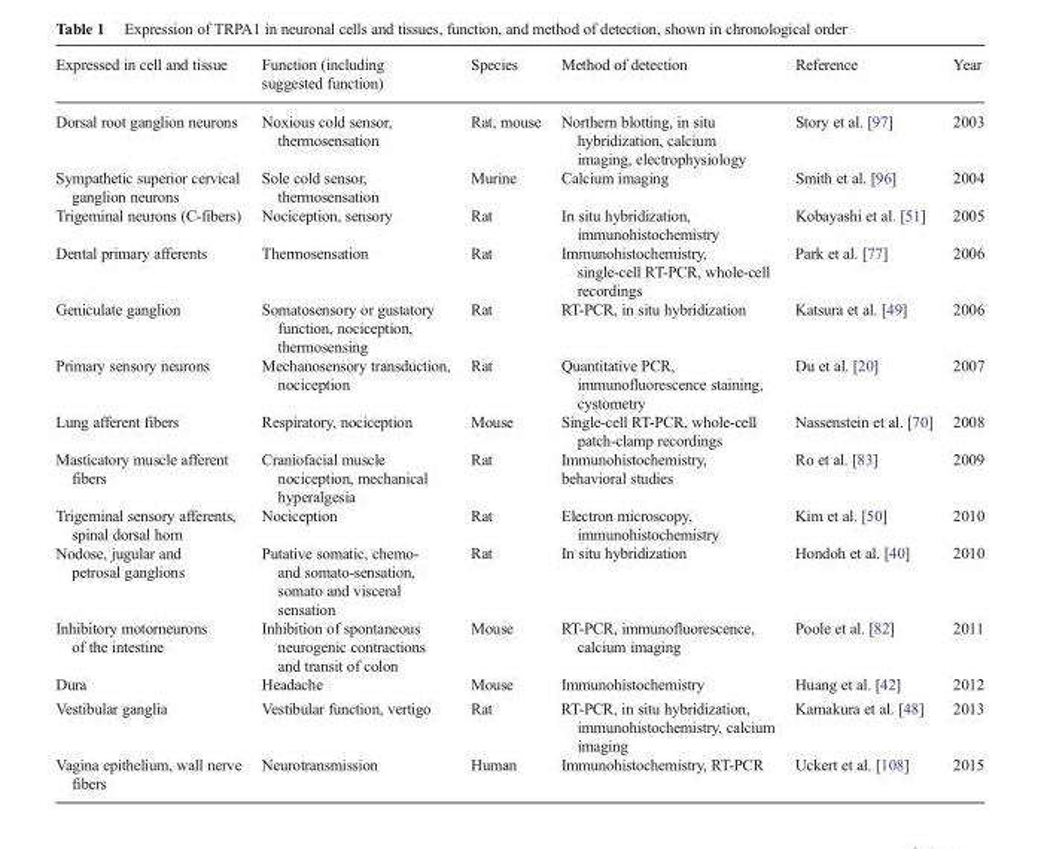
<table><thead><tr><td>Expressed in cell and tissue</td><td>Function (including suggested function)</td><td>Species</td><td>Method of detection</td><td>Reference</td><td>Year</td></tr></thead><tbody><tr><td>Dorsal root ganglion neurons</td><td>Noxious cold sensor, thermosensation</td><td>Rat, mouse</td><td>Northern blotting, in situ hybridization, calcium imaging, electrophysiology</td><td>Story et al. [97]</td><td>2003</td></tr><tr><td>Sympathetic superior cervical ganglion neurons</td><td>Sole cold sensor, thermosensation</td><td>Murine</td><td>Calcium imaging</td><td>Smith et al. [96]</td><td>2004</td></tr><tr><td>Trigeminal neurons (C-fibers)</td><td>Nociception, sensory</td><td>Rat</td><td>In situ hybridization, immunohistochemistry</td><td>Kobayashi et al. [51]</td><td>2005</td></tr><tr><td>Dental primary afferents</td><td>Thermosensation</td><td>Rat</td><td>Immunohistochemistry, single-cell RT-PCR, whole-cell recordings</td><td>Park et al. [77]</td><td>2006</td></tr><tr><td>Geniculate ganglion</td><td>Somatosensory or gustatory function, nociception, thermosensing</td><td>Rat</td><td>RT-PCR, in situ hybridization</td><td>Katsura et al. [49]</td><td>2006</td></tr><tr><td>Primary sensory neurons</td><td>Mechanosensory transduction, nociception</td><td>Rat</td><td>Quantitative PCR, immunofluorescence staining, cystometry</td><td>Du et al. [20]</td><td>2007</td></tr><tr><td>Lung afferent fibers</td><td>Respiratory, nociception</td><td>Mouse</td><td>Single-cell RT-PCR, whole-cell patch-clamp recordings</td><td>Nassenstein et al. [70]</td><td>2008</td></tr><tr><td>Masticatory muscle afferent fibers</td><td>Craniofacial muscle nociception, mechanical hyperalgesia</td><td>Rat</td><td>Immunohistochemistry, behavioral studies</td><td>Ro et al. [83]</td><td>2009</td></tr><tr><td>Trigeminal sensory afferents, spinal dorsal horn</td><td>Nociception</td><td>Rat</td><td>Electron microscopy, immunohistochemistry</td><td>Kim et al. [50]</td><td>2010</td></tr><tr><td>Nodose, jugular and petrosal ganglions</td><td>Putative somatic, chemo- and somato-sensation, somato and visceral sensation</td><td>Rat</td><td>In situ hybridization</td><td>Hondoh et al. [40]</td><td>2010</td></tr><tr><td>Inhibitory motorneurons of the intestine</td><td>Inhibition of spontaneous neurogenic contractions and transit of colon</td><td>Mouse</td><td>RT-PCR, immunofluorescence, calcium imaging</td><td>Poole et al. [82]</td><td>2011</td></tr><tr><td>Dura</td><td>Headache</td><td>Mouse</td><td>Immunohistochemistry</td><td>Huang et al. [42]</td><td>2012</td></tr><tr><td>Vestibular ganglia</td><td>Vestibular function, vertigo</td><td>Rat</td><td>RT-PCR, in situ hybridization, immunohistochemistry, calcium imaging</td><td>Kamakura et al. [48]</td><td>2013</td></tr><tr><td>Vagina epithelium, wall nerve fibers</td><td>Neurotransmission</td><td>Human</td><td>Immunohistochemistry, RT-PCR</td><td>Uckert et al. [108]</td><td>2015</td></tr></tbody></table>